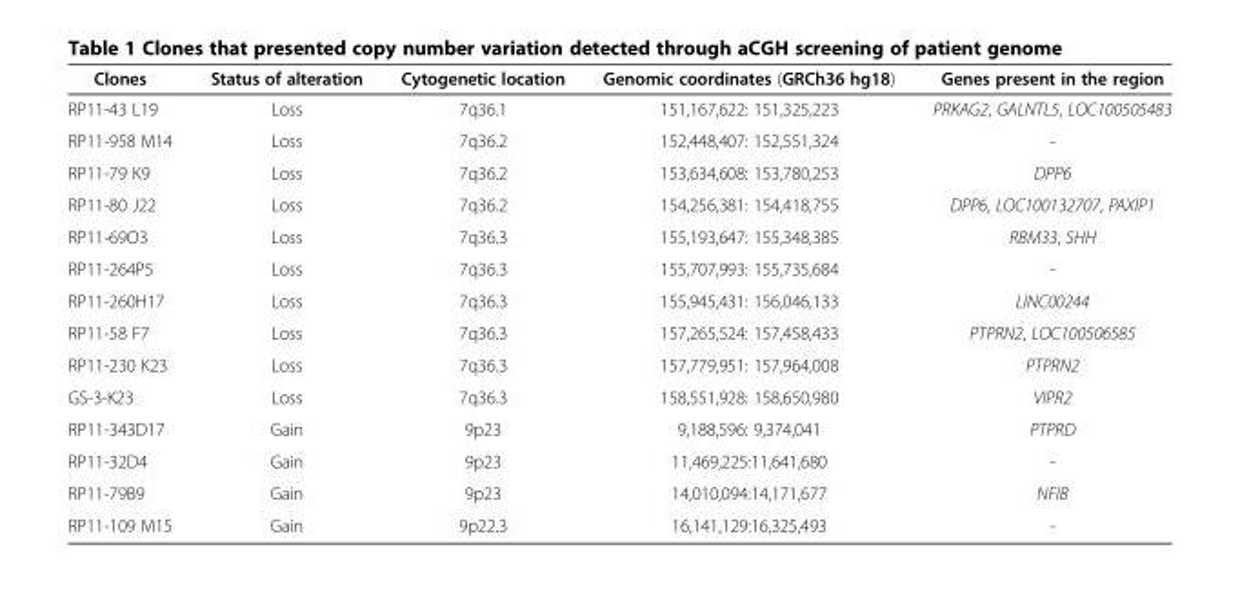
<table><thead><tr><td>Clones</td><td>Status of alteration</td><td>Cytogenetic location</td><td>Genomic coordinates (GRCh36 hg18)</td><td>Genes present in the region</td></tr></thead><tbody><tr><td>RP11-43 L19</td><td>Loss</td><td>7q36.1</td><td>151,167,622: 151,325,223</td><td>PRKAG2, GALNTL5, LOC100505483</td></tr><tr><td>RP11-958 M14</td><td>Loss</td><td>7q36.2</td><td>152,448,407: 152,551,324</td><td>-</td></tr><tr><td>RP11-79 K9</td><td>Loss</td><td>7q36.2</td><td>153,634,608: 153,780,253</td><td>DPP6</td></tr><tr><td>RP11-80 J22</td><td>Loss</td><td>7q36.2</td><td>154,256,381: 154,418,755</td><td>DPP6, LOC100132707, PAXIP1</td></tr><tr><td>RP11-69O3</td><td>Loss</td><td>7q36.3</td><td>155,193,647: 155,348,385</td><td>RBM33, SHH</td></tr><tr><td>RP11-264P5</td><td>Loss</td><td>7q36.3</td><td>155,707,993: 155,735,684</td><td>-</td></tr><tr><td>RP11-260H17</td><td>Loss</td><td>7q36.3</td><td>155,945,431: 156,046,133</td><td>LINC00244</td></tr><tr><td>RP11-58 F7</td><td>Loss</td><td>7q36.3</td><td>157,265,524: 157,458,433</td><td>PTPRN2, LOC100506585</td></tr><tr><td>RP11-230 K23</td><td>Loss</td><td>7q36.3</td><td>157,779,951: 157,964,008</td><td>PTPRN2</td></tr><tr><td>GS-3-K23</td><td>Loss</td><td>7q36.3</td><td>158,551,928: 158,650,980</td><td>VIPR2</td></tr><tr><td>RP11-343D17</td><td>Gain</td><td>9p23</td><td>9,188,596: 9,374,041</td><td>PTPRD</td></tr><tr><td>RP11-32D4</td><td>Gain</td><td>9p23</td><td>11,469,225:11,641,680</td><td>-</td></tr><tr><td>RP11-79B9</td><td>Gain</td><td>9p23</td><td>14,010,094:14,171,677</td><td>NFIB</td></tr><tr><td>RP11-109 M15</td><td>Gain</td><td>9p22.3</td><td>16,141,129:16,325,493</td><td>-</td></tr></tbody></table>